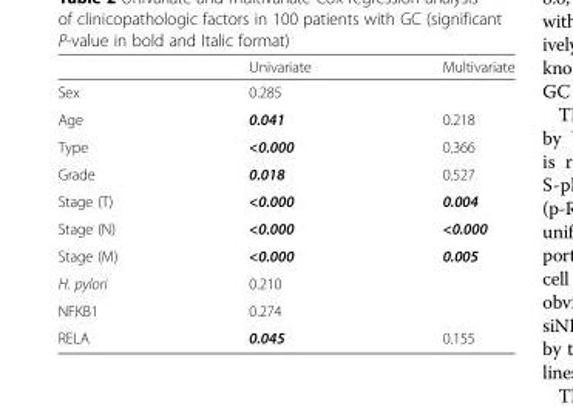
<table><thead><tr><td></td><td>Univariate</td><td>Multivariate</td></tr></thead><tbody><tr><td>Sex</td><td>0.285</td><td></td></tr><tr><td>Age</td><td>0.041</td><td>0.218</td></tr><tr><td>Type</td><td>&lt;0.000</td><td>0.366</td></tr><tr><td>Grade</td><td>0.018</td><td>0.527</td></tr><tr><td>Stage (T)</td><td>&lt;0.000</td><td>0.004</td></tr><tr><td>Stage (N)</td><td>&lt;0.000</td><td>&lt;0.000</td></tr><tr><td>Stage (M)</td><td>&lt;0.000</td><td>0.005</td></tr><tr><td>H. pylori</td><td>0.210</td><td></td></tr><tr><td>NFKB1</td><td>0.274</td><td></td></tr><tr><td>RELA</td><td>0.045</td><td>0.155</td></tr></tbody></table>